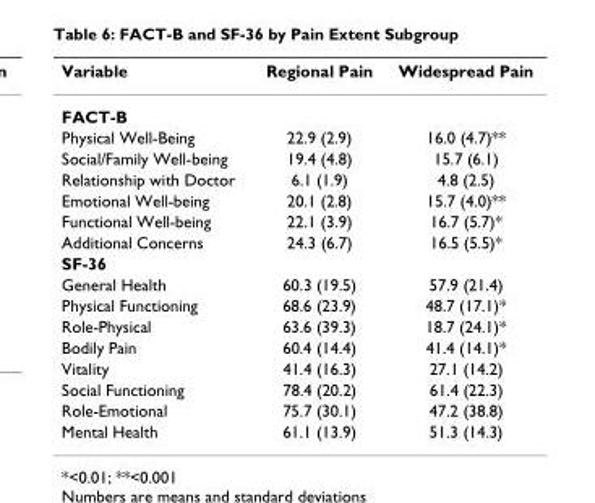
<table><thead><tr><td>Variable</td><td>Regional Pain</td><td>Widespread Pain</td></tr></thead><tbody><tr><td colspan="3">FACT-B</td></tr><tr><td>Physical Well-Being</td><td>22.9 (2.9)</td><td>16.0 (4.7)**</td></tr><tr><td>Social/Family Well-being</td><td>19.4 (4.8)</td><td>15.7 (6.1)</td></tr><tr><td>Relationship with Doctor</td><td>6.1 (1.9)</td><td>4.8 (2.5)</td></tr><tr><td>Emotional Well-being</td><td>20.1 (2.8)</td><td>15.7 (4.0)**</td></tr><tr><td>Functional Well-being</td><td>22.1 (3.9)</td><td>16.7 (5.7)*</td></tr><tr><td>Additional Concerns</td><td>24.3 (6.7)</td><td>16.5 (5.5)*</td></tr><tr><td colspan="3">SF-36</td></tr><tr><td>General Health</td><td>60.3 (19.5)</td><td>57.9 (21.4)</td></tr><tr><td>Physical Functioning</td><td>68.6 (23.9)</td><td>48.7 (17.1)*</td></tr><tr><td>Role-Physical</td><td>63.6 (39.3)</td><td>18.7 (24.1)*</td></tr><tr><td>Bodily Pain</td><td>60.4 (14.4)</td><td>41.4 (14.1)*</td></tr><tr><td>Vitality</td><td>41.4 (16.3)</td><td>27.1 (14.2)</td></tr><tr><td>Social Functioning</td><td>78.4 (20.2)</td><td>61.4 (22.3)</td></tr><tr><td>Role-Emotional</td><td>75.7 (30.1)</td><td>47.2 (38.8)</td></tr><tr><td>Mental Health</td><td>61.1 (13.9)</td><td>51.3 (14.3)</td></tr></tbody></table>